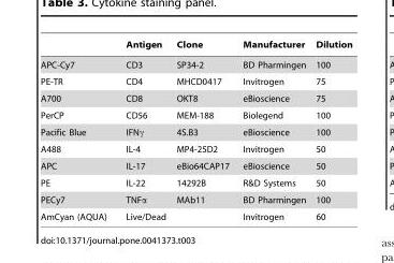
<table><thead><tr><td></td><td>Antigen</td><td>Clone</td><td>Manufacturer</td><td>Dilution</td></tr></thead><tbody><tr><td>APC-Cy7</td><td>CD3</td><td>SP34-2</td><td>BD Pharmingen</td><td>100</td></tr><tr><td>PE-TR</td><td>CD4</td><td>MHCD0417</td><td>Invitrogen</td><td>75</td></tr><tr><td>A700</td><td>CD8</td><td>OKT8</td><td>eBioscience</td><td>75</td></tr><tr><td>PerCP</td><td>CD56</td><td>MEM-188</td><td>Biolegend</td><td>100</td></tr><tr><td>Pacific Blue</td><td>IFNγ</td><td>4S.B3</td><td>eBioscience</td><td>100</td></tr><tr><td>A488</td><td>IL-4</td><td>MP4-25D2</td><td>Invitrogen</td><td>50</td></tr><tr><td>APC</td><td>IL-17</td><td>eBio64CAP17</td><td>eBioscience</td><td>50</td></tr><tr><td>PE</td><td>IL-22</td><td>14292B</td><td>R&amp;D Systems</td><td>50</td></tr><tr><td>PECy7</td><td>TNFα</td><td>MAb11</td><td>BD Pharmingen</td><td>100</td></tr><tr><td>AmCyan (AQUA)</td><td>Live/Dead</td><td></td><td>Invitrogen</td><td>60</td></tr></tbody></table>